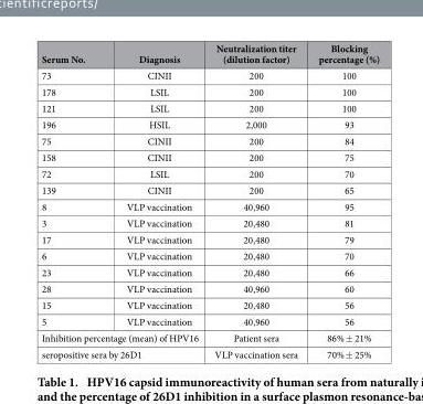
<table><thead><tr><td>Serum No.</td><td>Diagnosis</td><td>Neutralization titer (dilution factor)</td><td>Blocking percentage (%)</td></tr></thead><tbody><tr><td>73</td><td>CINII</td><td>200</td><td>100</td></tr><tr><td>178</td><td>LSIL</td><td>200</td><td>100</td></tr><tr><td>121</td><td>LSIL</td><td>200</td><td>100</td></tr><tr><td>196</td><td>HSIL</td><td>2,000</td><td>93</td></tr><tr><td>75</td><td>CINII</td><td>200</td><td>84</td></tr><tr><td>158</td><td>CINII</td><td>200</td><td>75</td></tr><tr><td>72</td><td>LSIL</td><td>200</td><td>70</td></tr><tr><td>139</td><td>CINII</td><td>200</td><td>65</td></tr><tr><td>8</td><td>VLP vaccination</td><td>40,960</td><td>95</td></tr><tr><td>3</td><td>VLP vaccination</td><td>20,480</td><td>81</td></tr><tr><td>17</td><td>VLP vaccination</td><td>20,480</td><td>79</td></tr><tr><td>6</td><td>VLP vaccination</td><td>20,480</td><td>70</td></tr><tr><td>23</td><td>VLP vaccination</td><td>20,480</td><td>66</td></tr><tr><td>28</td><td>VLP vaccination</td><td>40,960</td><td>60</td></tr><tr><td>15</td><td>VLP vaccination</td><td>20,480</td><td>56</td></tr><tr><td>5</td><td>VLP vaccination</td><td>40,960</td><td>56</td></tr><tr><td colspan="2">Inhibition percentage (mean) of HPV16</td><td>Patient sera</td><td>86% ± 21%</td></tr><tr><td colspan="2">seropositive sera by 26D1</td><td>VLP vaccination sera</td><td>70% ± 25%</td></tr></tbody></table>